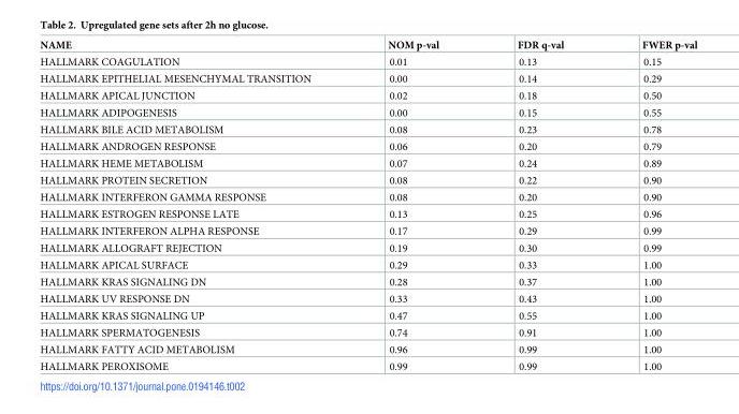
<table><thead><tr><td>NAME</td><td>NOM p-val</td><td>FDR q-val</td><td>FWER p-val</td></tr></thead><tbody><tr><td>HALLMARK COAGULATION</td><td>0.01</td><td>0.13</td><td>0.15</td></tr><tr><td>HALLMARK EPITHELIAL MESENCHYMAL TRANSITION</td><td>0.00</td><td>0.14</td><td>0.29</td></tr><tr><td>HALLMARK APICAL JUNCTION</td><td>0.02</td><td>0.18</td><td>0.50</td></tr><tr><td>HALLMARK ADIPOGENESIS</td><td>0.00</td><td>0.15</td><td>0.55</td></tr><tr><td>HALLMARK BILE ACID METABOLISM</td><td>0.08</td><td>0.23</td><td>0.78</td></tr><tr><td>HALLMARK ANDROGEN RESPONSE</td><td>0.06</td><td>0.20</td><td>0.79</td></tr><tr><td>HALLMARK HEME METABOLISM</td><td>0.07</td><td>0.24</td><td>0.89</td></tr><tr><td>HALLMARK PROTEIN SECRETION</td><td>0.08</td><td>0.22</td><td>0.90</td></tr><tr><td>HALLMARK INTERFERON GAMMA RESPONSE</td><td>0.08</td><td>0.20</td><td>0.90</td></tr><tr><td>HALLMARK ESTROGEN RESPONSE LATE</td><td>0.13</td><td>0.25</td><td>0.96</td></tr><tr><td>HALLMARK INTERFERON ALPHA RESPONSE</td><td>0.17</td><td>0.29</td><td>0.99</td></tr><tr><td>HALLMARK ALLOGRAFT REJECTION</td><td>0.19</td><td>0.30</td><td>0.99</td></tr><tr><td>HALLMARK APICAL SURFACE</td><td>0.29</td><td>0.33</td><td>1.00</td></tr><tr><td>HALLMARK KRAS SIGNALING DN</td><td>0.28</td><td>0.37</td><td>1.00</td></tr><tr><td>HALLMARK UV RESPONSE DN</td><td>0.33</td><td>0.43</td><td>1.00</td></tr><tr><td>HALLMARK KRAS SIGNALING UP</td><td>0.47</td><td>0.55</td><td>1.00</td></tr><tr><td>HALLMARK SPERMATOGENESIS</td><td>0.74</td><td>0.91</td><td>1.00</td></tr><tr><td>HALLMARK FATTY ACID METABOLISM</td><td>0.96</td><td>0.99</td><td>1.00</td></tr><tr><td>HALLMARK PEROXISOME</td><td>0.99</td><td>0.99</td><td>1.00</td></tr></tbody></table>